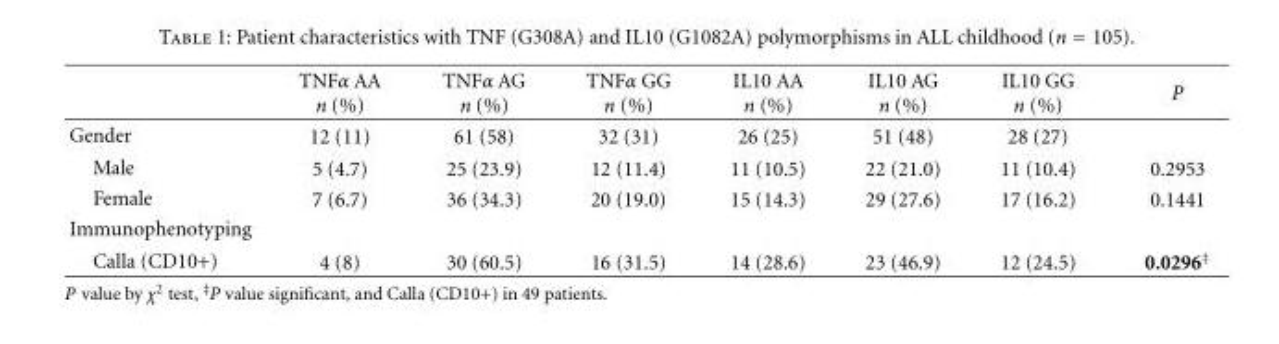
<table><thead><tr><td></td><td>TNFα AA n (%)</td><td>TNFα AG n (%)</td><td>TNFα GG n (%)</td><td>IL10 AA n (%)</td><td>IL10 AG n (%)</td><td>IL10 GG n (%)</td><td>P</td></tr></thead><tbody><tr><td>Gender</td><td>12 (11)</td><td>61 (58)</td><td>32 (31)</td><td>26 (25)</td><td>51 (48)</td><td>28 (27)</td><td></td></tr><tr><td>Male</td><td>5 (4.7)</td><td>25 (23.9)</td><td>12 (11.4)</td><td>11 (10.5)</td><td>22 (21.0)</td><td>11 (10.4)</td><td>0.2953</td></tr><tr><td>Female</td><td>7 (6.7)</td><td>36 (34.3)</td><td>20 (19.0)</td><td>15 (14.3)</td><td>29 (27.6)</td><td>17 (16.2)</td><td>0.1441</td></tr><tr><td colspan="8">Immunophenotyping</td></tr><tr><td>Calla (CD10+)</td><td>4 (8)</td><td>30 (60.5)</td><td>16 (31.5)</td><td>14 (28.6)</td><td>23 (46.9)</td><td>12 (24.5)</td><td>0.0296<sup>‡</sup></td></tr></tbody></table>